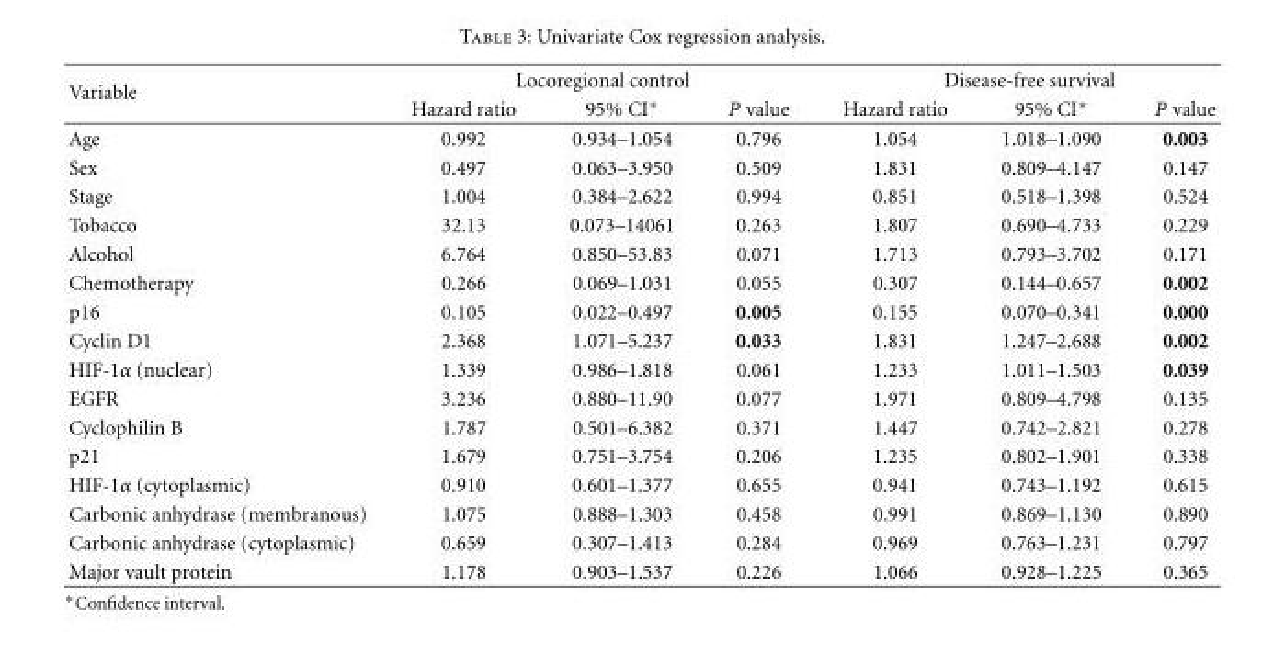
<table><thead><tr><td rowspan="2">Variable</td><td colspan="3">Locoregional control</td><td colspan="3">Disease-free survival</td></tr><tr><td>Hazard ratio</td><td>95% CI∗</td><td>P value</td><td>Hazard ratio</td><td>95% CI∗</td><td>P value</td></tr></thead><tbody><tr><td>Age</td><td>0.992</td><td>0.934–1.054</td><td>0.796</td><td>1.054</td><td>1.018–1.090</td><td>0.003</td></tr><tr><td>Sex</td><td>0.497</td><td>0.063–3.950</td><td>0.509</td><td>1.831</td><td>0.809–4.147</td><td>0.147</td></tr><tr><td>Stage</td><td>1.004</td><td>0.384–2.622</td><td>0.994</td><td>0.851</td><td>0.518–1.398</td><td>0.524</td></tr><tr><td>Tobacco</td><td>32.13</td><td>0.073–14061</td><td>0.263</td><td>1.807</td><td>0.690–4.733</td><td>0.229</td></tr><tr><td>Alcohol</td><td>6.764</td><td>0.850–53.83</td><td>0.071</td><td>1.713</td><td>0.793–3.702</td><td>0.171</td></tr><tr><td>Chemotherapy</td><td>0.266</td><td>0.069–1.031</td><td>0.055</td><td>0.307</td><td>0.144–0.657</td><td>0.002</td></tr><tr><td>p16</td><td>0.105</td><td>0.022–0.497</td><td>0.005</td><td>0.155</td><td>0.070–0.341</td><td>0.000</td></tr><tr><td>Cyclin D1</td><td>2.368</td><td>1.071–5.237</td><td>0.033</td><td>1.831</td><td>1.247–2.688</td><td>0.002</td></tr><tr><td>HIF-1α (nuclear)</td><td>1.339</td><td>0.986–1.818</td><td>0.061</td><td>1.233</td><td>1.011–1.503</td><td>0.039</td></tr><tr><td>EGFR</td><td>3.236</td><td>0.880–11.90</td><td>0.077</td><td>1.971</td><td>0.809–4.798</td><td>0.135</td></tr><tr><td>Cyclophilin B</td><td>1.787</td><td>0.501–6.382</td><td>0.371</td><td>1.447</td><td>0.742–2.821</td><td>0.278</td></tr><tr><td>p21</td><td>1.679</td><td>0.751–3.754</td><td>0.206</td><td>1.235</td><td>0.802–1.901</td><td>0.338</td></tr><tr><td>HIF-1α (cytoplasmic)</td><td>0.910</td><td>0.601–1.377</td><td>0.655</td><td>0.941</td><td>0.743–1.192</td><td>0.615</td></tr><tr><td>Carbonic anhydrase (membranous)</td><td>1.075</td><td>0.888–1.303</td><td>0.458</td><td>0.991</td><td>0.869–1.130</td><td>0.890</td></tr><tr><td>Carbonic anhydrase (cytoplasmic)</td><td>0.659</td><td>0.307–1.413</td><td>0.284</td><td>0.969</td><td>0.763–1.231</td><td>0.797</td></tr><tr><td>Major vault protein</td><td>1.178</td><td>0.903–1.537</td><td>0.226</td><td>1.066</td><td>0.928–1.225</td><td>0.365</td></tr></tbody></table>